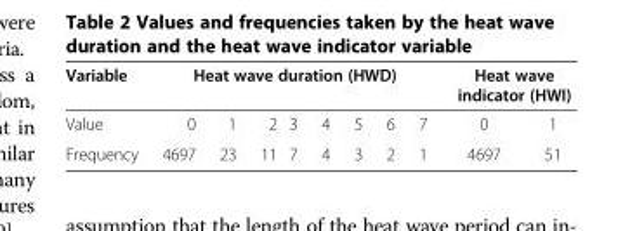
<table><thead><tr><td rowspan="2">Variable Value</td><td colspan="8">Heat wave duration (HWD)</td><td colspan="2">Heat wave indicator (HWI)</td></tr><tr><td>0</td><td>1</td><td>2</td><td>3</td><td>4</td><td>5</td><td>6</td><td>7</td><td>0</td><td>1</td></tr></thead><tbody><tr><td>Frequency</td><td>4697</td><td>23</td><td>11</td><td>7</td><td>4</td><td>3</td><td>2</td><td>1</td><td>4697</td><td>51</td></tr></tbody></table>